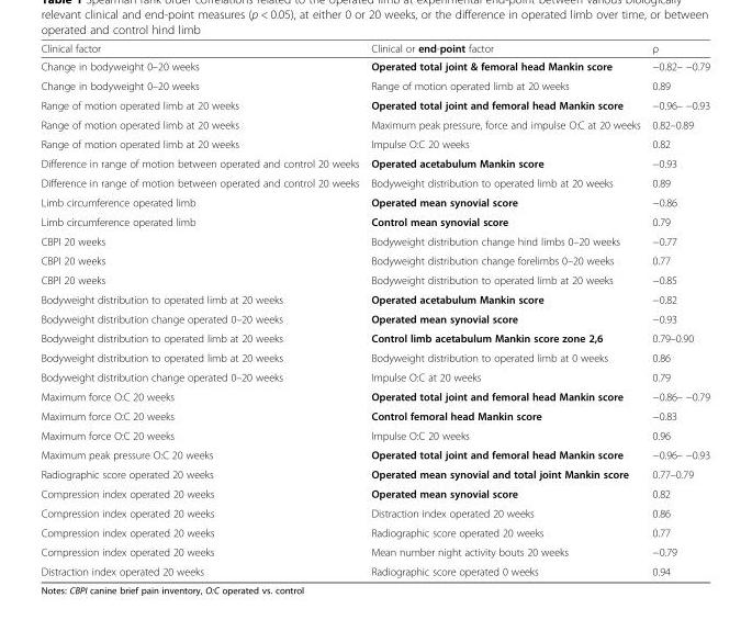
<table><thead><tr><td>Clinical factor</td><td>Clinical or end-point factor</td><td>ρ</td></tr></thead><tbody><tr><td>Change in bodyweight 0–20 weeks</td><td>Operated total joint &amp; femoral head Mankin score</td><td>−0.82– −0.79</td></tr><tr><td>Change in bodyweight 0–20 weeks</td><td>Range of motion operated limb at 20 weeks</td><td>0.89</td></tr><tr><td>Range of motion operated limb at 20 weeks</td><td>Operated total joint and femoral head Mankin score</td><td>−0.96– −0.93</td></tr><tr><td>Range of motion operated limb at 20 weeks</td><td>Maximum peak pressure, force and impulse O:C at 20 weeks</td><td>0.82–0.89</td></tr><tr><td>Range of motion operated limb at 20 weeks</td><td>Impulse O:C 20 weeks</td><td>0.82</td></tr><tr><td>Difference in range of motion between operated and control 20 weeks</td><td>Operated acetabulum Mankin score</td><td>−0.93</td></tr><tr><td>Difference in range of motion between operated and control 20 weeks</td><td>Bodyweight distribution to operated limb at 20 weeks</td><td>0.89</td></tr><tr><td>Limb circumference operated limb</td><td>Operated mean synovial score</td><td>−0.86</td></tr><tr><td>Limb circumference operated limb</td><td>Control mean synovial score</td><td>0.79</td></tr><tr><td>CBPI 20 weeks</td><td>Bodyweight distribution change hind limbs 0–20 weeks</td><td>−0.77</td></tr><tr><td>CBPI 20 weeks</td><td>Bodyweight distribution change forelimbs 0–20 weeks</td><td>0.77</td></tr><tr><td>CBPI 20 weeks</td><td>Bodyweight distribution to operated limb at 20 weeks</td><td>−0.85</td></tr><tr><td>Bodyweight distribution to operated limb at 20 weeks</td><td>Operated acetabulum Mankin score</td><td>−0.82</td></tr><tr><td>Bodyweight distribution change operated 0–20 weeks</td><td>Operated mean synovial score</td><td>−0.93</td></tr><tr><td>Bodyweight distribution to operated limb at 20 weeks</td><td>Control limb acetabulum Mankin score zone 2,6</td><td>0.79–0.90</td></tr><tr><td>Bodyweight distribution to operated limb at 20 weeks</td><td>Bodyweight distribution to operated limb at 0 weeks</td><td>0.86</td></tr><tr><td>Bodyweight distribution change operated 0–20 weeks</td><td>Impulse O:C at 20 weeks</td><td>0.79</td></tr><tr><td>Maximum force O:C 20 weeks</td><td>Operated total joint and femoral head Mankin score</td><td>−0.86– −0.79</td></tr><tr><td>Maximum force O:C 20 weeks</td><td>Control femoral head Mankin score</td><td>−0.83</td></tr><tr><td>Maximum force O:C 20 weeks</td><td>Impulse O:C 20 weeks</td><td>0.96</td></tr><tr><td>Maximum peak pressure O:C 20 weeks</td><td>Operated total joint and femoral head Mankin score</td><td>−0.96– −0.93</td></tr><tr><td>Radiographic score operated 20 weeks</td><td>Operated mean synovial and total joint Mankin score</td><td>0.77–0.79</td></tr><tr><td>Compression index operated 20 weeks</td><td>Operated mean synovial score</td><td>0.82</td></tr><tr><td>Compression index operated 20 weeks</td><td>Distraction index operated 20 weeks</td><td>0.86</td></tr><tr><td>Compression index operated 20 weeks</td><td>Radiographic score operated 20 weeks</td><td>0.77</td></tr><tr><td>Compression index operated 20 weeks</td><td>Mean number night activity bouts 20 weeks</td><td>−0.79</td></tr><tr><td>Distraction index operated 20 weeks</td><td>Radiographic score operated 0 weeks</td><td>0.94</td></tr></tbody></table>